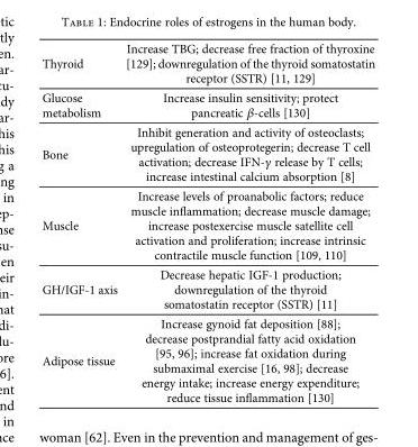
<table><tbody><tr><td>Thyroid</td><td>Increase TBG; decrease free fraction of thyroxine [129]; downregulation of the thyroid somatostatin receptor (SSTR) [11, 129]</td></tr><tr><td>Glucose metabolism</td><td>Increase insulin sensitivity; protect pancreatic β-cells [130]</td></tr><tr><td>Bone</td><td>Inhibit generation and activity of osteoclasts; upregulation of osteoprotegerin; decrease T cell activation; decrease IFN-γ release by T cells; increase intestinal calcium absorption [8]</td></tr><tr><td>Muscle</td><td>Increase levels of proanabolic factors; reduce muscle inflammation; decrease muscle damage; increase postexercise muscle satellite cell activation and proliferation; increase intrinsic contractile muscle function [109, 110]</td></tr><tr><td>GH/IGF-1 axis</td><td>Decrease hepatic IGF-1 production; downregulation of the thyroid somatostatin receptor (SSTR) [11]</td></tr><tr><td>Adipose tissue</td><td>Increase gynoid fat deposition [88]; decrease postprandial fatty acid oxidation [95, 96]; increase fat oxidation during submaximal exercise [16, 98]; decrease energy intake; increase energy expenditure; reduce tissue inflammation [130]</td></tr></tbody></table>